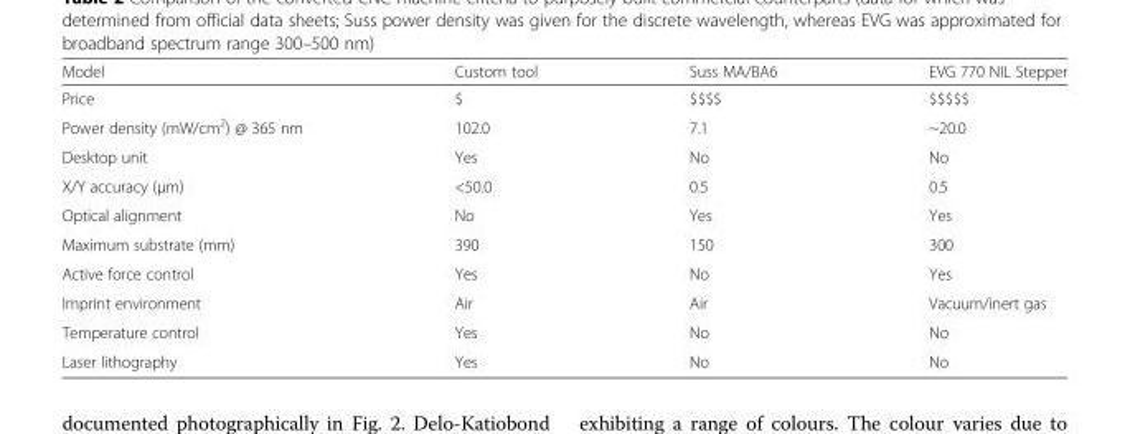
<table><thead><tr><td>Model</td><td>Custom tool</td><td>Suss MA/BA6</td><td>EVG 770 NIL Stepper</td></tr></thead><tbody><tr><td>Price</td><td>$</td><td>$$$$</td><td>$$$$$</td></tr><tr><td>Power density (mW/cm<sup>2</sup>) @ 365 nm</td><td>102.0</td><td>7.1</td><td>~20.0</td></tr><tr><td>Desktop unit</td><td>Yes</td><td>No</td><td>No</td></tr><tr><td>X/Y accuracy (μm)</td><td>&lt;50.0</td><td>0.5</td><td>0.5</td></tr><tr><td>Optical alignment</td><td>No</td><td>Yes</td><td>Yes</td></tr><tr><td>Maximum substrate (mm)</td><td>390</td><td>150</td><td>300</td></tr><tr><td>Active force control</td><td>Yes</td><td>No</td><td>Yes</td></tr><tr><td>Imprint environment</td><td>Air</td><td>Air</td><td>Vacuum/inert gas</td></tr><tr><td>Temperature control</td><td>Yes</td><td>No</td><td>No</td></tr><tr><td>Laser lithography</td><td>Yes</td><td>No</td><td>No</td></tr></tbody></table>